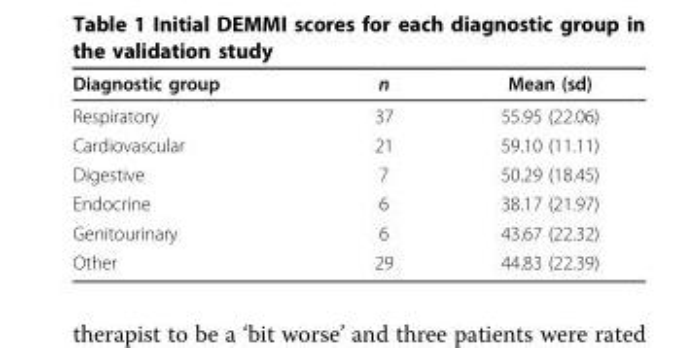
<table><thead><tr><td>Diagnostic group</td><td>n</td><td>Mean (sd)</td></tr></thead><tbody><tr><td>Respiratory</td><td>37</td><td>55.95 (22.06)</td></tr><tr><td>Cardiovascular</td><td>21</td><td>59.10 (11.11)</td></tr><tr><td>Digestive</td><td>7</td><td>50.29 (18.45)</td></tr><tr><td>Endocrine</td><td>6</td><td>38.17 (21.97)</td></tr><tr><td>Genitourinary</td><td>6</td><td>43.67 (22.32)</td></tr><tr><td>Other</td><td>29</td><td>44.83 (22.39)</td></tr></tbody></table>